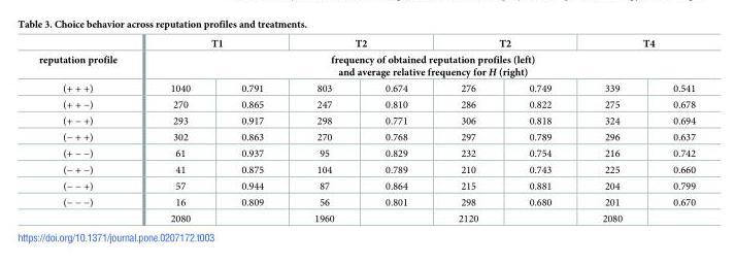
<table><thead><tr><td rowspan="3">reputation profile (+ + +)</td><td colspan="2">T1</td><td colspan="2">T2</td><td colspan="2">T2</td><td colspan="2">T4</td></tr><tr><td colspan="8">frequency of obtained reputation profiles (left) and average relative frequency for H (right)</td></tr><tr><td>1040</td><td>0.791</td><td>803</td><td>0.674</td><td>276</td><td>0.749</td><td>339</td><td>0.541</td></tr></thead><tbody><tr><td>(+ + −)</td><td>270</td><td>0.865</td><td>247</td><td>0.810</td><td>286</td><td>0.822</td><td>275</td><td>0.678</td></tr><tr><td>(+ − +)</td><td>293</td><td>0.917</td><td>298</td><td>0.771</td><td>306</td><td>0.818</td><td>324</td><td>0.694</td></tr><tr><td>(− + +)</td><td>302</td><td>0.863</td><td>270</td><td>0.768</td><td>297</td><td>0.789</td><td>296</td><td>0.637</td></tr><tr><td>(+ − −)</td><td>61</td><td>0.937</td><td>95</td><td>0.829</td><td>232</td><td>0.754</td><td>216</td><td>0.742</td></tr><tr><td>(− + −)</td><td>41</td><td>0.875</td><td>104</td><td>0.789</td><td>210</td><td>0.743</td><td>225</td><td>0.660</td></tr><tr><td>(− − +)</td><td>57</td><td>0.944</td><td>87</td><td>0.864</td><td>215</td><td>0.881</td><td>204</td><td>0.799</td></tr><tr><td rowspan="2">(− − −)</td><td>16</td><td>0.809</td><td>56</td><td>0.801</td><td>298</td><td>0.680</td><td>201</td><td>0.670</td></tr><tr><td>2080</td><td></td><td>1960</td><td></td><td>2120</td><td></td><td>2080</td><td></td></tr></tbody></table>